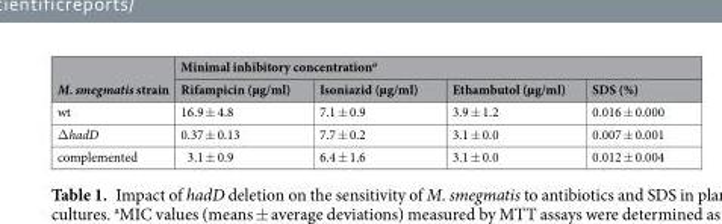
<table><thead><tr><td rowspan="2">M. smegmatis strain</td><td colspan="4">Minimal inhibitory concentration<sup>a</sup></td></tr><tr><td>Rifampicin (µg/ml)</td><td>Isoniazid (µg/ml)</td><td>Ethambutol (µg/ml)</td><td>SDS (%)</td></tr></thead><tbody><tr><td>wt</td><td>16.9 ± 4.8</td><td>7.1 ± 0.9</td><td>3.9 ± 1.2</td><td>0.016 ± 0.000</td></tr><tr><td>ΔhadD</td><td>0.37 ± 0.13</td><td>7.7 ± 0.2</td><td>3.1 ± 0.0</td><td>0.007 ± 0.001</td></tr><tr><td>complemented</td><td>3.1 ± 0.9</td><td>6.4 ± 1.6</td><td>3.1 ± 0.0</td><td>0.012 ± 0.004</td></tr></tbody></table>